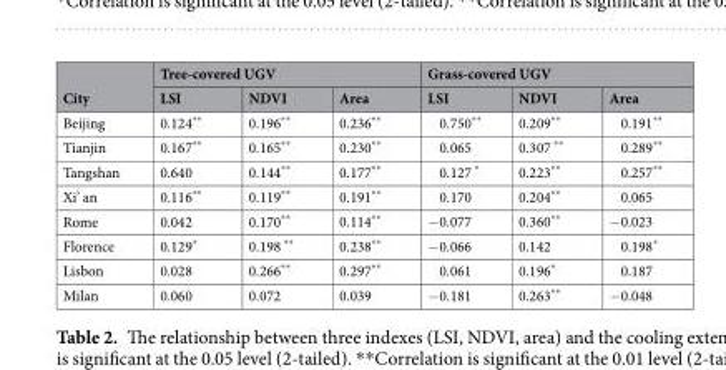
<table><thead><tr><td rowspan="2">City</td><td colspan="3">Tree-covered UGV</td><td colspan="3">Grass-covered UGV</td></tr><tr><td>LSI</td><td>NDVI</td><td>Area</td><td>LSI</td><td>NDVI</td><td>Area</td></tr></thead><tbody><tr><td>Beijing</td><td>0.124**</td><td>0.196**</td><td>0.236**</td><td>0.750**</td><td>0.209**</td><td>0.191**</td></tr><tr><td>Tianjin</td><td>0.167**</td><td>0.165**</td><td>0.230**</td><td>0.065</td><td>0.307 **</td><td>0.289**</td></tr><tr><td>Tangshan</td><td>0.640</td><td>0.144**</td><td>0.177**</td><td>0.127 *</td><td>0.223**</td><td>0.257**</td></tr><tr><td>Xi’ an</td><td>0.116**</td><td>0.119**</td><td>0.191**</td><td>0.170</td><td>0.204**</td><td>0.065</td></tr><tr><td>Rome</td><td>0.042</td><td>0.170**</td><td>0.114**</td><td>−0.077</td><td>0.360**</td><td>−0.023</td></tr><tr><td>Florence</td><td>0.129*</td><td>0.198 **</td><td>0.238**</td><td>−0.066</td><td>0.142</td><td>0.198*</td></tr><tr><td>Lisbon</td><td>0.028</td><td>0.266**</td><td>0.297**</td><td>0.061</td><td>0.196*</td><td>0.187</td></tr><tr><td>Milan</td><td>0.060</td><td>0.072</td><td>0.039</td><td>−0.181</td><td>0.263**</td><td>−0.048</td></tr></tbody></table>